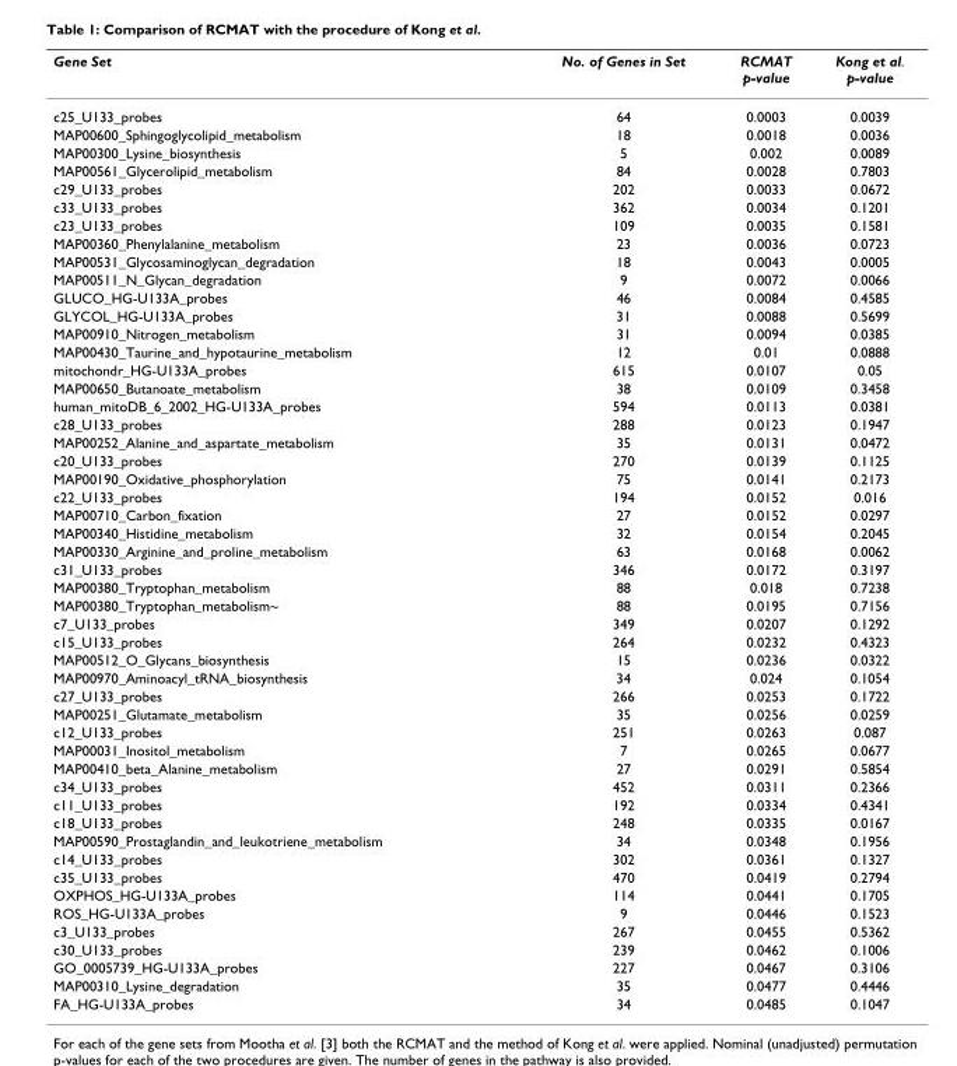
<table><thead><tr><td>Gene Set</td><td>No. of Genes in Set</td><td>RCMAT p-value</td><td>Kong et al. p-value</td></tr></thead><tbody><tr><td>c25_U133_probes</td><td>64</td><td>0.0003</td><td>0.0039</td></tr><tr><td>MAP00600_Sphingoglycolipid_metabolism</td><td>18</td><td>0.0018</td><td>0.0036</td></tr><tr><td>MAP00300_Lysine_biosynthesis</td><td>5</td><td>0.002</td><td>0.0089</td></tr><tr><td>MAP00561_Glycerolipid_metabolism</td><td>84</td><td>0.0028</td><td>0.7803</td></tr><tr><td>c29_U133_probes</td><td>202</td><td>0.0033</td><td>0.0672</td></tr><tr><td>c33_U133_probes</td><td>362</td><td>0.0034</td><td>0.1201</td></tr><tr><td>c23_U133_probes</td><td>109</td><td>0.0035</td><td>0.1581</td></tr><tr><td>MAP00360_Phenylalanine_metabolism</td><td>23</td><td>0.0036</td><td>0.0723</td></tr><tr><td>MAP00531_Glycosaminoglycan_degradation</td><td>18</td><td>0.0043</td><td>0.0005</td></tr><tr><td>MAP00511_N_Glycan_degradation</td><td>9</td><td>0.0072</td><td>0.0066</td></tr><tr><td>GLUCO_HG-U133A_probes</td><td>46</td><td>0.0084</td><td>0.4585</td></tr><tr><td>GLYCOL_HG-U133A_probes</td><td>31</td><td>0.0088</td><td>0.5699</td></tr><tr><td>MAP00910_Nitrogen_metabolism</td><td>31</td><td>0.0094</td><td>0.0385</td></tr><tr><td>MAP00430_Taurine_and_hypotaurine_metabolism</td><td>12</td><td>0.01</td><td>0.0888</td></tr><tr><td>mitochondr_HG-U133A_probes</td><td>615</td><td>0.0107</td><td>0.05</td></tr><tr><td>MAP00650_Butanoate_metabolism</td><td>38</td><td>0.0109</td><td>0.3458</td></tr><tr><td>human_mitoDB_6_2002_HG-U133A_probes</td><td>594</td><td>0.0113</td><td>0.0381</td></tr><tr><td>c28_U133_probes</td><td>288</td><td>0.0123</td><td>0.1947</td></tr><tr><td>MAP00252_Alanine_and_aspartate_metabolism</td><td>35</td><td>0.0131</td><td>0.0472</td></tr><tr><td>c20_U133_probes</td><td>270</td><td>0.0139</td><td>0.1125</td></tr><tr><td>MAP00190_Oxidative_phosphorylation</td><td>75</td><td>0.0141</td><td>0.2173</td></tr><tr><td>c22_U133_probes</td><td>194</td><td>0.0152</td><td>0.016</td></tr><tr><td>MAP00710_Carbon_fixation</td><td>27</td><td>0.0152</td><td>0.0297</td></tr><tr><td>MAP00340_Histidine_metabolism</td><td>32</td><td>0.0154</td><td>0.2045</td></tr><tr><td>MAP00330_Arginine_and_proline_metabolism</td><td>63</td><td>0.0168</td><td>0.0062</td></tr><tr><td>c31_U133_probes</td><td>346</td><td>0.0172</td><td>0.3197</td></tr><tr><td>MAP00380_Tryptophan_metabolism</td><td>88</td><td>0.018</td><td>0.7238</td></tr><tr><td>MAP00380_Tryptophan_metabolism~</td><td>88</td><td>0.0195</td><td>0.7156</td></tr><tr><td>c7_U133_probes</td><td>349</td><td>0.0207</td><td>0.1292</td></tr><tr><td>c15_U133_probes</td><td>264</td><td>0.0232</td><td>0.4323</td></tr><tr><td>MAP00512_O_Glycans_biosynthesis</td><td>15</td><td>0.0236</td><td>0.0322</td></tr><tr><td>MAP00970_Aminoacyl_tRNA_biosynthesis</td><td>34</td><td>0.024</td><td>0.1054</td></tr><tr><td>c27_U133_probes</td><td>266</td><td>0.0253</td><td>0.1722</td></tr><tr><td>MAP00251_Glutamate_metabolism</td><td>35</td><td>0.0256</td><td>0.0259</td></tr><tr><td>c12_U133_probes</td><td>251</td><td>0.0263</td><td>0.087</td></tr><tr><td>MAP00031_Inositol_metabolism</td><td>7</td><td>0.0265</td><td>0.0677</td></tr><tr><td>MAP00410_beta_Alanine_metabolism</td><td>27</td><td>0.0291</td><td>0.5854</td></tr><tr><td>c34_U133_probes</td><td>452</td><td>0.0311</td><td>0.2366</td></tr><tr><td>c11_U133_probes</td><td>192</td><td>0.0334</td><td>0.4341</td></tr><tr><td>c18_U133_probes</td><td>248</td><td>0.0335</td><td>0.0167</td></tr><tr><td>MAP00590_Prostaglandin_and_leukotriene_metabolism</td><td>34</td><td>0.0348</td><td>0.1956</td></tr><tr><td>c14_U133_probes</td><td>302</td><td>0.0361</td><td>0.1327</td></tr><tr><td>c35_U133_probes</td><td>470</td><td>0.0419</td><td>0.2794</td></tr><tr><td>OXPHOS_HG-U133A_probes</td><td>114</td><td>0.0441</td><td>0.1705</td></tr><tr><td>ROS_HG-U133A_probes</td><td>9</td><td>0.0446</td><td>0.1523</td></tr><tr><td>c3_U133_probes</td><td>267</td><td>0.0455</td><td>0.5362</td></tr><tr><td>c30_U133_probes</td><td>239</td><td>0.0462</td><td>0.1006</td></tr><tr><td>GO_0005739_HG-U133A_probes</td><td>227</td><td>0.0467</td><td>0.3106</td></tr><tr><td>MAP00310_Lysine_degradation</td><td>35</td><td>0.0477</td><td>0.4446</td></tr><tr><td>FA_HG-U133A_probes</td><td>34</td><td>0.0485</td><td>0.1047</td></tr></tbody></table>